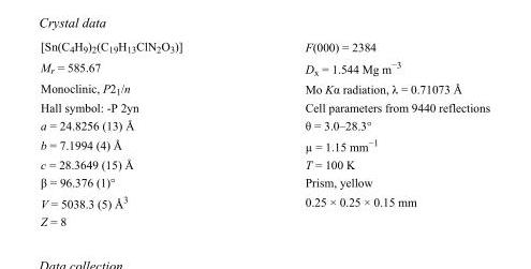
<table><tbody><tr><td>[Sn(C<sub>4</sub>H<sub>9</sub>)<sub>2</sub>(C<sub>19</sub>H<sub>13</sub>ClN<sub>2</sub>O<sub>3</sub>)]</td><td>F(000) = 2384</td></tr><tr><td>M<sub>r</sub> = 585.67</td><td>D<sub>x</sub> = 1.544 Mg m<sup>−3</sup></td></tr><tr><td>Monoclinic, P2<sub>1</sub>/n</td><td>Mo Kα radiation, λ = 0.71073 Å</td></tr><tr><td>Hall symbol: -P 2yn</td><td>Cell parameters from 9440 reflections</td></tr><tr><td>a = 24.8256 (13) Å</td><td>θ = 3.0–28.3°</td></tr><tr><td>b = 7.1994 (4) Å</td><td>µ = 1.15 mm<sup>−1</sup></td></tr><tr><td>c = 28.3649 (15) Å</td><td>T = 100 K</td></tr><tr><td>β = 96.376 (1)°</td><td>Prism, yellow</td></tr><tr><td>V = 5038.3 (5) Å<sup>3</sup></td><td>0.25 × 0.25 × 0.15 mm</td></tr><tr><td>Z = 8</td><td></td></tr></tbody></table>